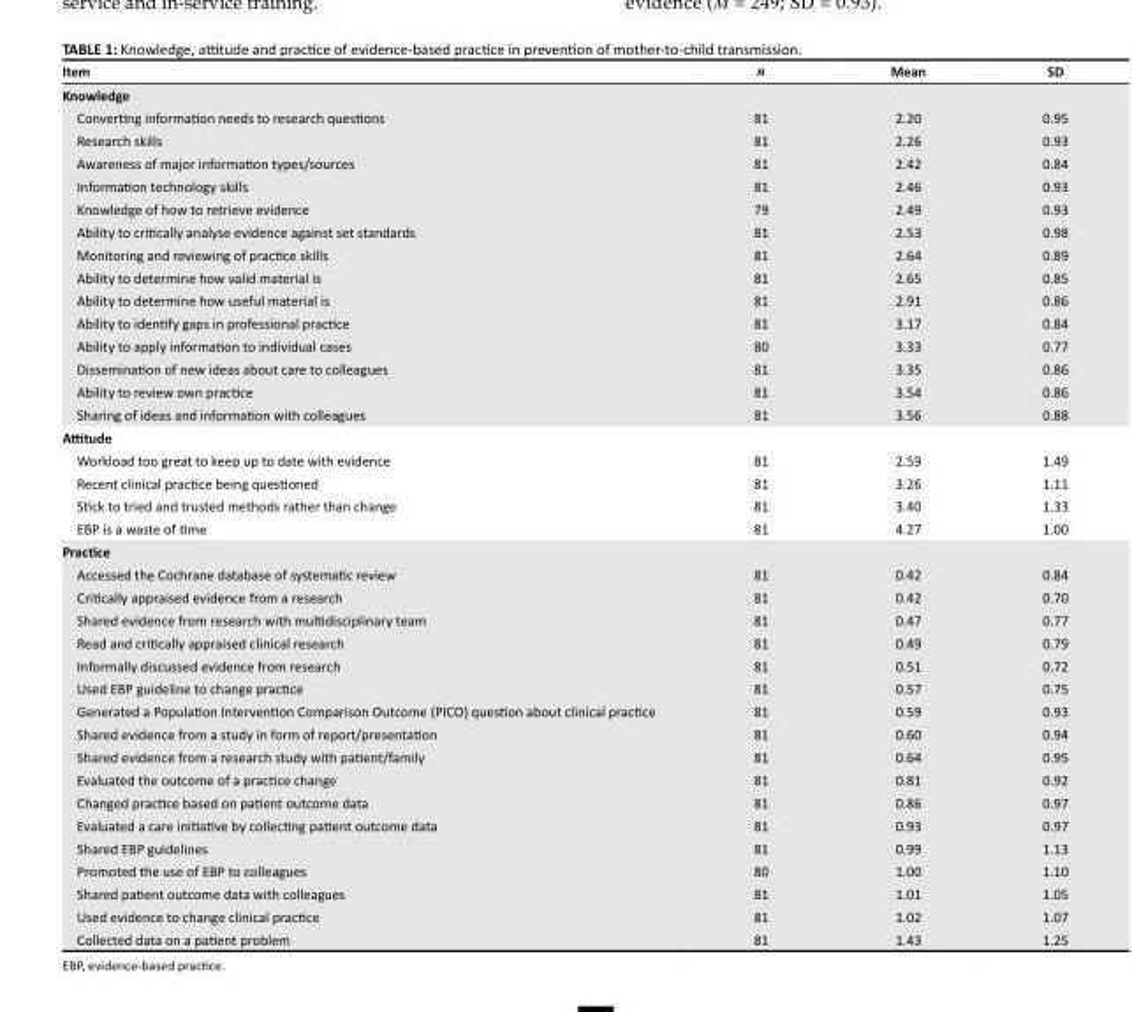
<table><thead><tr><td>Item</td><td>n</td><td>Mean</td><td>SD</td></tr></thead><tbody><tr><td colspan="4">Knowledge</td></tr><tr><td>Converting information needs to research questions</td><td>81</td><td>2.20</td><td>0.95</td></tr><tr><td>Research skills</td><td>81</td><td>2.26</td><td>0.93</td></tr><tr><td>Awareness of major information types/sources</td><td>81</td><td>2.42</td><td>0.84</td></tr><tr><td>Information technology skills</td><td>81</td><td>2.46</td><td>0.93</td></tr><tr><td>Knowledge of how to retrieve evidence</td><td>79</td><td>2.49</td><td>0.93</td></tr><tr><td>Ability to critically analyse evidence against set standards</td><td>81</td><td>2.53</td><td>0.98</td></tr><tr><td>Monitoring and reviewing of practice skills</td><td>81</td><td>2.64</td><td>0.89</td></tr><tr><td>Ability to determine how valid material is</td><td>81</td><td>2.65</td><td>0.85</td></tr><tr><td>Ability to determine how useful material is</td><td>81</td><td>2.91</td><td>0.86</td></tr><tr><td>Ability to identify gaps in professional practice</td><td>81</td><td>3.17</td><td>0.84</td></tr><tr><td>Ability to apply information to individual cases</td><td>80</td><td>3.33</td><td>0.77</td></tr><tr><td>Dissemination of new ideas about care to colleagues</td><td>81</td><td>3.35</td><td>0.86</td></tr><tr><td>Ability to review own practice</td><td>81</td><td>3.54</td><td>0.86</td></tr><tr><td>Sharing of ideas and information with colleagues</td><td>81</td><td>3.56</td><td>0.88</td></tr><tr><td colspan="4">Attitude</td></tr><tr><td>Workload too great to keep up to date with evidence</td><td>81</td><td>2.59</td><td>1.49</td></tr><tr><td>Recent clinical practice being questioned</td><td>81</td><td>3.26</td><td>1.11</td></tr><tr><td>Stick to tried and trusted methods rather than change</td><td>81</td><td>3.40</td><td>1.33</td></tr><tr><td>EBP is a waste of time</td><td>81</td><td>4.27</td><td>1.00</td></tr><tr><td colspan="4">Practice</td></tr><tr><td>Accessed the Cochrane database of systematic review</td><td>81</td><td>0.42</td><td>0.84</td></tr><tr><td>Critically appraised evidence from a research</td><td>81</td><td>0.42</td><td>0.70</td></tr><tr><td>Shared evidence from research with multidisciplinary team</td><td>81</td><td>0.47</td><td>0.77</td></tr><tr><td>Read and critically appraised clinical research</td><td>81</td><td>0.49</td><td>0.79</td></tr><tr><td>Informally discussed evidence from research</td><td>81</td><td>0.51</td><td>0.72</td></tr><tr><td>Used EBP guideline to change practice</td><td>81</td><td>0.57</td><td>0.75</td></tr><tr><td>Generated a Population Intervention Comparison Outcome (PICO) question about clinical practice</td><td>81</td><td>0.59</td><td>0.93</td></tr><tr><td>Shared evidence from a study in form of report/presentation</td><td>81</td><td>0.60</td><td>0.94</td></tr><tr><td>Shared evidence from a research study with patient/family</td><td>81</td><td>0.64</td><td>0.95</td></tr><tr><td>Evaluated the outcome of a practice change</td><td>81</td><td>0.81</td><td>0.92</td></tr><tr><td>Changed practice based on patient outcome data</td><td>81</td><td>0.86</td><td>0.97</td></tr><tr><td>Evaluated a care initiative by collecting patient outcome data</td><td>81</td><td>0.93</td><td>0.97</td></tr><tr><td>Shared EBP guidelines</td><td>81</td><td>0.99</td><td>1.13</td></tr><tr><td>Promoted the use of EBP to colleagues</td><td>80</td><td>1.00</td><td>1.10</td></tr><tr><td>Shared patient outcome data with colleagues</td><td>81</td><td>1.01</td><td>1.05</td></tr><tr><td>Used evidence to change clinical practice</td><td>81</td><td>1.02</td><td>1.07</td></tr><tr><td>Collected data on a patient problem</td><td>81</td><td>1.43</td><td>1.25</td></tr></tbody></table>